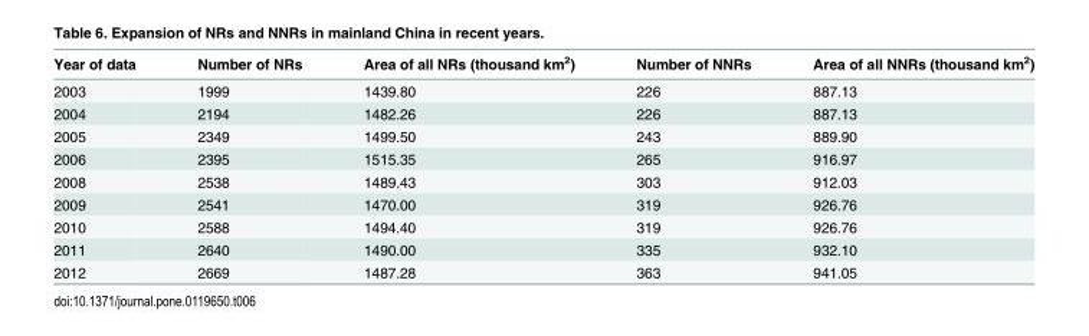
<table><thead><tr><td>Year of data</td><td>Number of NRs</td><td>Area of all NRs (thousand km<sup>2</sup>)</td><td>Number of NNRs</td><td>Area of all NNRs (thousand km<sup>2</sup>)</td></tr></thead><tbody><tr><td>2003</td><td>1999</td><td>1439.80</td><td>226</td><td>887.13</td></tr><tr><td>2004</td><td>2194</td><td>1482.26</td><td>226</td><td>887.13</td></tr><tr><td>2005</td><td>2349</td><td>1499.50</td><td>243</td><td>889.90</td></tr><tr><td>2006</td><td>2395</td><td>1515.35</td><td>265</td><td>916.97</td></tr><tr><td>2008</td><td>2538</td><td>1489.43</td><td>303</td><td>912.03</td></tr><tr><td>2009</td><td>2541</td><td>1470.00</td><td>319</td><td>926.76</td></tr><tr><td>2010</td><td>2588</td><td>1494.40</td><td>319</td><td>926.76</td></tr><tr><td>2011</td><td>2640</td><td>1490.00</td><td>335</td><td>932.10</td></tr><tr><td>2012</td><td>2669</td><td>1487.28</td><td>363</td><td>941.05</td></tr></tbody></table>